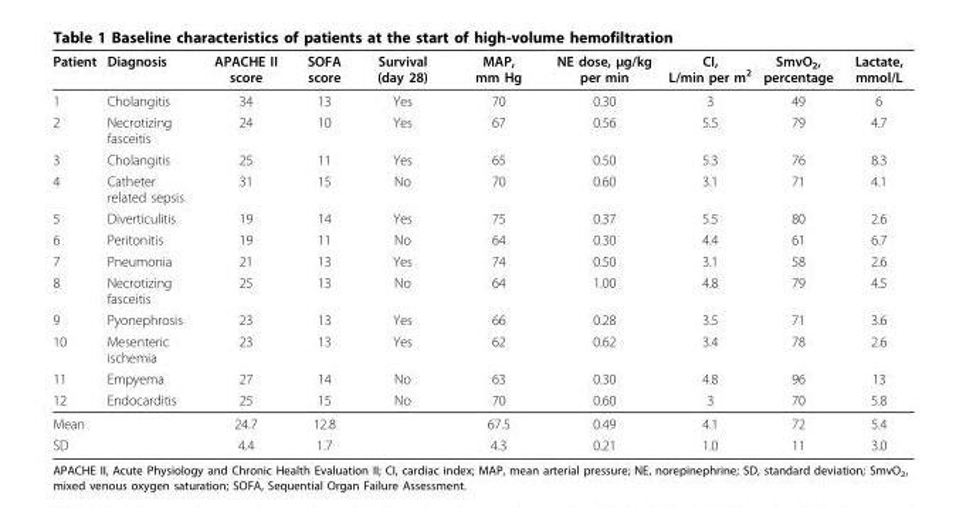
<table><thead><tr><td>Patient</td><td>Diagnosis</td><td>APACHE II score</td><td>SOFA score</td><td>Survival (day 28)</td><td>MAP, mm Hg</td><td>NE dose, μg/kg per min</td><td>CI, L/min per m<sup>2</sup></td><td>SmvO<sub>2</sub>, percentage</td><td>Lactate, mmol/L</td></tr></thead><tbody><tr><td>1</td><td>Cholangitis</td><td>34</td><td>13</td><td>Yes</td><td>70</td><td>0.30</td><td>3</td><td>49</td><td>6</td></tr><tr><td>2</td><td>Necrotizing fasceitis</td><td>24</td><td>10</td><td>Yes</td><td>67</td><td>0.56</td><td>5.5</td><td>79</td><td>4.7</td></tr><tr><td>3</td><td>Cholangitis</td><td>25</td><td>11</td><td>Yes</td><td>65</td><td>0.50</td><td>5.3</td><td>76</td><td>8.3</td></tr><tr><td>4</td><td>Catheter related sepsis</td><td>31</td><td>15</td><td>No</td><td>70</td><td>0.60</td><td>3.1</td><td>71</td><td>4.1</td></tr><tr><td>5</td><td>Diverticulitis</td><td>19</td><td>14</td><td>Yes</td><td>75</td><td>0.37</td><td>5.5</td><td>80</td><td>2.6</td></tr><tr><td>6</td><td>Peritonitis</td><td>19</td><td>11</td><td>No</td><td>64</td><td>0.30</td><td>4.4</td><td>61</td><td>6.7</td></tr><tr><td>7</td><td>Pneumonia</td><td>21</td><td>13</td><td>Yes</td><td>74</td><td>0.50</td><td>3.1</td><td>58</td><td>2.6</td></tr><tr><td>8</td><td>Necrotizing fasceitis</td><td>25</td><td>13</td><td>No</td><td>64</td><td>1.00</td><td>4.8</td><td>79</td><td>4.5</td></tr><tr><td>9</td><td>Pyonephrosis</td><td>23</td><td>13</td><td>Yes</td><td>66</td><td>0.28</td><td>3.5</td><td>71</td><td>3.6</td></tr><tr><td>10</td><td>Mesenteric ischemia</td><td>23</td><td>13</td><td>Yes</td><td>62</td><td>0.62</td><td>3.4</td><td>78</td><td>2.6</td></tr><tr><td>11</td><td>Empyema</td><td>27</td><td>14</td><td>No</td><td>63</td><td>0.30</td><td>4.8</td><td>96</td><td>13</td></tr><tr><td>12</td><td>Endocarditis</td><td>25</td><td>15</td><td>No</td><td>70</td><td>0.60</td><td>3</td><td>70</td><td>5.8</td></tr><tr><td>Mean</td><td></td><td>24.7</td><td>12.8</td><td></td><td>67.5</td><td>0.49</td><td>4.1</td><td>72</td><td>5.4</td></tr><tr><td>SD</td><td></td><td>4.4</td><td>1.7</td><td></td><td>4.3</td><td>0.21</td><td>1.0</td><td>11</td><td>3.0</td></tr></tbody></table>